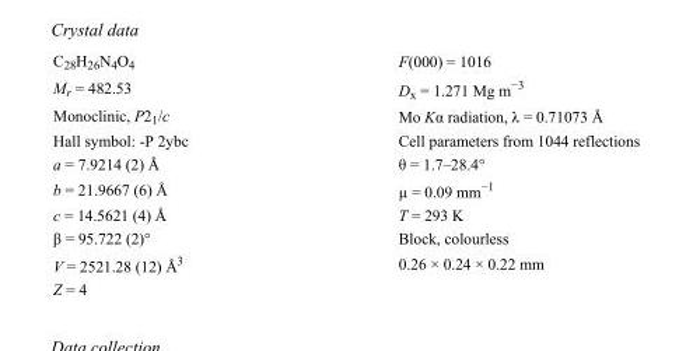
<table><tbody><tr><td>C<sub>28</sub>H<sub>26</sub>N<sub>4</sub>O<sub>4</sub></td><td>F(000) = 1016</td></tr><tr><td>M<sub>r</sub> = 482.53</td><td>D<sub>x</sub> = 1.271 Mg m<sup>−3</sup></td></tr><tr><td>Monoclinic, P2<sub>1</sub>/c</td><td>Mo Kα radiation, λ = 0.71073 Å</td></tr><tr><td>Hall symbol: -P 2ybc</td><td>Cell parameters from 1044 reflections</td></tr><tr><td>a = 7.9214 (2) Å</td><td>θ = 1.7–28.4°</td></tr><tr><td>b = 21.9667 (6) Å</td><td>µ = 0.09 mm<sup>−1</sup></td></tr><tr><td>c = 14.5621 (4) Å</td><td>T = 293 K</td></tr><tr><td>β = 95.722 (2)°</td><td>Block, colourless</td></tr><tr><td>V = 2521.28 (12) Å<sup>3</sup></td><td>0.26 × 0.24 × 0.22 mm</td></tr><tr><td>Z = 4</td><td></td></tr></tbody></table>